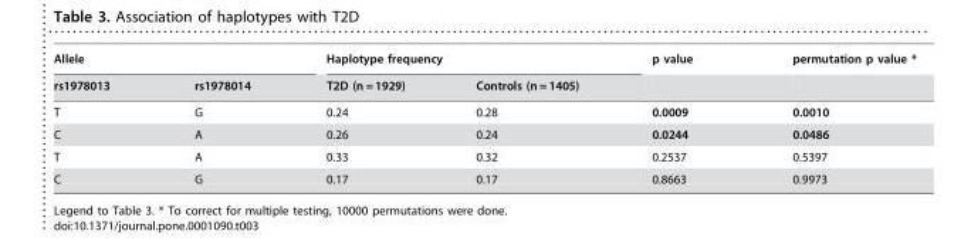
<table><thead><tr><td colspan="2">Allele</td><td colspan="2">Haplotype frequency</td><td rowspan="2">p value</td><td rowspan="2">permutation p value *</td></tr><tr><td>rs1978013</td><td>rs1978014</td><td>T2D (n = 1929)</td><td>Controls (n = 1405)</td></tr></thead><tbody><tr><td>T</td><td>G</td><td>0.24</td><td>0.28</td><td>0.0009</td><td>0.0010</td></tr><tr><td>C</td><td>A</td><td>0.26</td><td>0.24</td><td>0.0244</td><td>0.0486</td></tr><tr><td>T</td><td>A</td><td>0.33</td><td>0.32</td><td>0.2537</td><td>0.5397</td></tr><tr><td>C</td><td>G</td><td>0.17</td><td>0.17</td><td>0.8663</td><td>0.9973</td></tr></tbody></table>